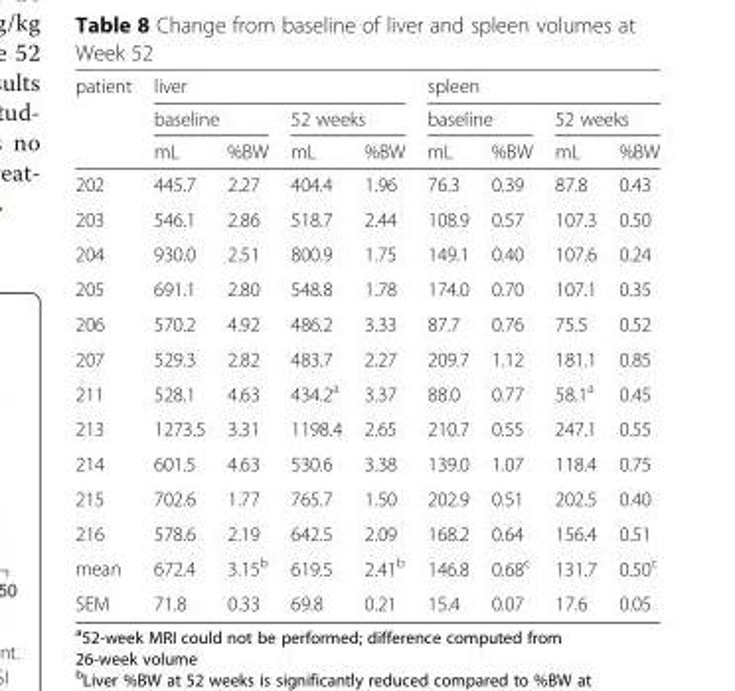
<table><thead><tr><td rowspan="3">patient</td><td colspan="4">liver</td><td colspan="4">spleen</td></tr><tr><td colspan="2">baseline</td><td colspan="2">52 weeks</td><td colspan="2">baseline</td><td colspan="2">52 weeks</td></tr><tr><td>mL</td><td>%BW</td><td>mL</td><td>%BW</td><td>mL</td><td>%BW</td><td>mL</td><td>%BW</td></tr></thead><tbody><tr><td>202</td><td>445.7</td><td>2.27</td><td>404.4</td><td>1.96</td><td>76.3</td><td>0.39</td><td>87.8</td><td>0.43</td></tr><tr><td>203</td><td>546.1</td><td>2.86</td><td>518.7</td><td>2.44</td><td>108.9</td><td>0.57</td><td>107.3</td><td>0.50</td></tr><tr><td>204</td><td>930.0</td><td>2.51</td><td>800.9</td><td>1.75</td><td>149.1</td><td>0.40</td><td>107.6</td><td>0.24</td></tr><tr><td>205</td><td>691.1</td><td>2.80</td><td>548.8</td><td>1.78</td><td>174.0</td><td>0.70</td><td>107.1</td><td>0.35</td></tr><tr><td>206</td><td>570.2</td><td>4.92</td><td>486.2</td><td>3.33</td><td>87.7</td><td>0.76</td><td>75.5</td><td>0.52</td></tr><tr><td>207</td><td>529.3</td><td>2.82</td><td>483.7</td><td>2.27</td><td>209.7</td><td>1.12</td><td>181.1</td><td>0.85</td></tr><tr><td>211</td><td>528.1</td><td>4.63</td><td>434.2<sup>a</sup></td><td>3.37</td><td>88.0</td><td>0.77</td><td>58.1<sup>a</sup></td><td>0.45</td></tr><tr><td>213</td><td>1273.5</td><td>3.31</td><td>1198.4</td><td>2.65</td><td>210.7</td><td>0.55</td><td>247.1</td><td>0.55</td></tr><tr><td>214</td><td>601.5</td><td>4.63</td><td>530.6</td><td>3.38</td><td>139.0</td><td>1.07</td><td>118.4</td><td>0.75</td></tr><tr><td>215</td><td>702.6</td><td>1.77</td><td>765.7</td><td>1.50</td><td>202.9</td><td>0.51</td><td>202.5</td><td>0.40</td></tr><tr><td>216</td><td>578.6</td><td>2.19</td><td>642.5</td><td>2.09</td><td>168.2</td><td>0.64</td><td>156.4</td><td>0.51</td></tr><tr><td>mean</td><td>672.4</td><td>3.15<sup>b</sup></td><td>619.5</td><td>2.41<sup>b</sup></td><td>146.8</td><td>0.68<sup>c</sup></td><td>131.7</td><td>0.50<sup>c</sup></td></tr><tr><td>SEM</td><td>71.8</td><td>0.33</td><td>69.8</td><td>0.21</td><td>15.4</td><td>0.07</td><td>17.6</td><td>0.05</td></tr></tbody></table>